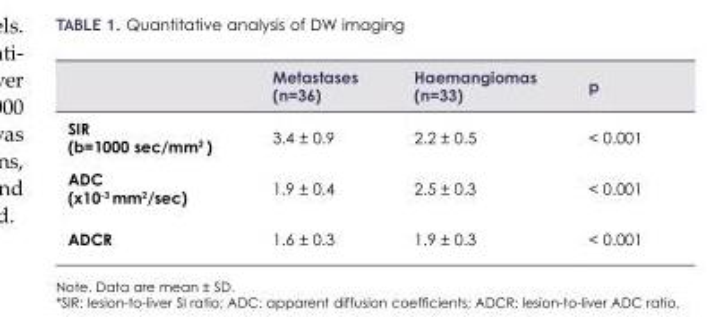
<table><thead><tr><td></td><td>Metastases (n=36)</td><td>Haemangiomas (n=33)</td><td>p</td></tr></thead><tbody><tr><td>SIR (b=1000 sec/mm<sup>2</sup> )</td><td>3.4 ± 0.9</td><td>2.2 ± 0.5</td><td>&lt; 0.001</td></tr><tr><td>ADC (x10-3 mm2/sec)</td><td>1.9 ± 0.4</td><td>2.5 ± 0.3</td><td>&lt; 0.001</td></tr><tr><td>ADCR</td><td>1.6 ± 0.3</td><td>1.9 ± 0.3</td><td>&lt; 0.001</td></tr></tbody></table>